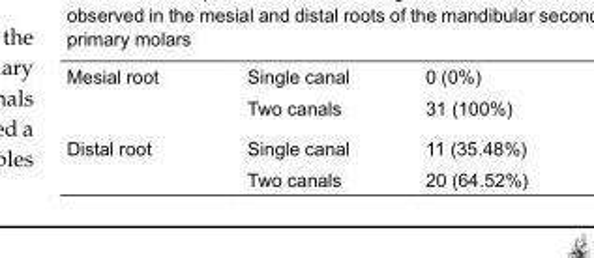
<table><tbody><tr><td rowspan="2">Mesial root</td><td>Single canal</td><td>0 (0%)</td></tr><tr><td>Two canals</td><td>31 (100%)</td></tr><tr><td rowspan="2">Distal root</td><td>Single canal</td><td>11 (35.48%)</td></tr><tr><td>Two canals</td><td>20 (64.52%)</td></tr></tbody></table>